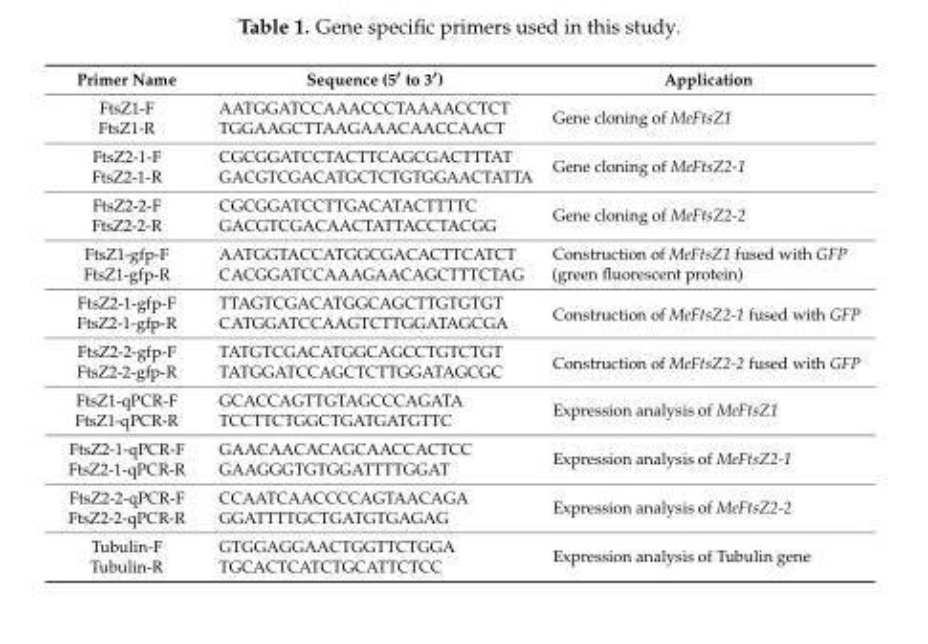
<table><thead><tr><td>Primer Name</td><td>Sequence (5′ to 3′)</td><td>Application</td></tr></thead><tbody><tr><td>FtsZ1-F</td><td>AATGGATCCAAACCCTAAAACCTCT</td><td rowspan="2">Gene cloning of MeFtsZ1</td></tr><tr><td>FtsZ1-R</td><td>TGGAAGCTTAAGAAACAACCAACT</td></tr><tr><td>FtsZ2-1-F</td><td>CGCGGATCCTACTTCAGCGACTTTAT</td><td rowspan="2">Gene cloning of MeFtsZ2-1</td></tr><tr><td>FtsZ2-1-R</td><td>GACGTCGACATGCTCTGTGGAACTATTA</td></tr><tr><td>FtsZ2-2-F</td><td>CGCGGATCCTTGACATACTTTTC</td><td rowspan="2">Gene cloning of MeFtsZ2-2</td></tr><tr><td>FtsZ2-2-R</td><td>GACGTCGACAACTATTACCTACGG</td></tr><tr><td>FtsZ1-gfp-F</td><td>AATGGTACCATGGCGACACTTCATCT</td><td rowspan="2">Construction of MeFtsZ1 fused with GFP (green fluorescent protein)</td></tr><tr><td>FtsZ1-gfp-R</td><td>CACGGATCCAAAGAACAGCTTTCTAG</td></tr><tr><td>FtsZ2-1-gfp-F</td><td>TTAGTCGACATGGCAGCTTGTGTGT</td><td rowspan="2">Construction of MeFtsZ2-1 fused with GFP</td></tr><tr><td>FtsZ2-1-gfp-R</td><td>CATGGATCCAAGTCTTGGATAGCGA</td></tr><tr><td>FtsZ2-2-gfp-F</td><td>TATGTCGACATGGCAGCCTGTCTGT</td><td rowspan="2">Construction of MeFtsZ2-2 fused with GFP</td></tr><tr><td>FtsZ2-2-gfp-R</td><td>TATGGATCCAGCTCTTGGATAGCGC</td></tr><tr><td>FtsZ1-qPCR-F</td><td>GCACCAGTTGTAGCCCAGATA</td><td rowspan="2">Expression analysis of MeFtsZ1</td></tr><tr><td>FtsZ1-qPCR-R</td><td>TCCTTCTGGCTGATGATGTTC</td></tr><tr><td>FtsZ2-1-qPCR-F</td><td>GAACAACACAGCAACCACTCC</td><td rowspan="2">Expression analysis of MeFtsZ2-1</td></tr><tr><td>FtsZ2-1-qPCR-R</td><td>GAAGGGTGTGGATTTTGGAT</td></tr><tr><td>FtsZ2-2-qPCR-F</td><td>CCAATCAACCCCAGTAACAGA</td><td rowspan="2">Expression analysis of MeFtsZ2-2</td></tr><tr><td>FtsZ2-2-qPCR-R</td><td>GGATTTTGCTGATGTGAGAG</td></tr><tr><td>Tubulin-F</td><td>GTGGAGGAACTGGTTCTGGA</td><td rowspan="2">Expression analysis of Tubulin gene</td></tr><tr><td>Tubulin-R</td><td>TGCACTCATCTGCATTCTCC</td></tr></tbody></table>